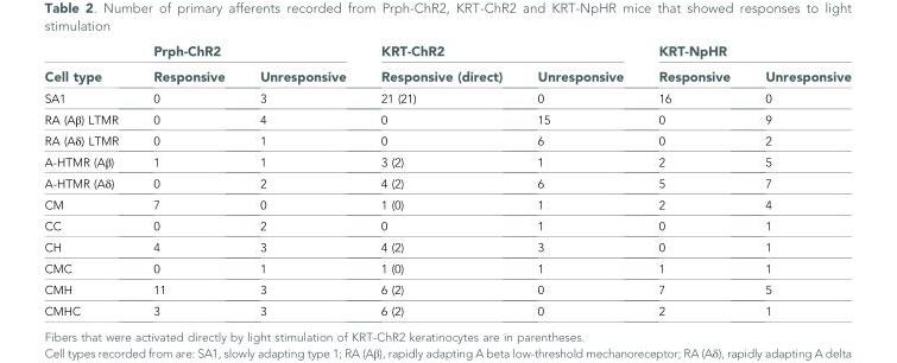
<table><thead><tr><td rowspan="2">Cell type</td><td colspan="2">Prph-ChR2</td><td colspan="2">KRT-ChR2</td><td colspan="2">KRT-NpHR</td></tr><tr><td>Responsive</td><td>Unresponsive</td><td>Responsive (direct)</td><td>Unresponsive</td><td>Responsive</td><td>Unresponsive</td></tr></thead><tbody><tr><td>SA1</td><td>0</td><td>3</td><td>21 (21)</td><td>0</td><td>16</td><td>0</td></tr><tr><td>RA (Aβ) LTMR</td><td>0</td><td>4</td><td>0</td><td>15</td><td>0</td><td>9</td></tr><tr><td>RA (Aδ) LTMR</td><td>0</td><td>1</td><td>0</td><td>6</td><td>0</td><td>2</td></tr><tr><td>A-HTMR (Aβ)</td><td>1</td><td>1</td><td>3 (2)</td><td>1</td><td>2</td><td>5</td></tr><tr><td>A-HTMR (Aδ)</td><td>0</td><td>2</td><td>4 (2)</td><td>6</td><td>5</td><td>7</td></tr><tr><td>CM</td><td>7</td><td>0</td><td>1 (0)</td><td>1</td><td>2</td><td>4</td></tr><tr><td>CC</td><td>0</td><td>2</td><td>0</td><td>1</td><td>0</td><td>1</td></tr><tr><td>CH</td><td>4</td><td>3</td><td>4 (2)</td><td>3</td><td>0</td><td>1</td></tr><tr><td>CMC</td><td>0</td><td>1</td><td>1 (0)</td><td>1</td><td>1</td><td>1</td></tr><tr><td>CMH</td><td>11</td><td>3</td><td>6 (2)</td><td>0</td><td>7</td><td>5</td></tr><tr><td>CMHC</td><td>3</td><td>3</td><td>6 (2)</td><td>0</td><td>2</td><td>1</td></tr></tbody></table>